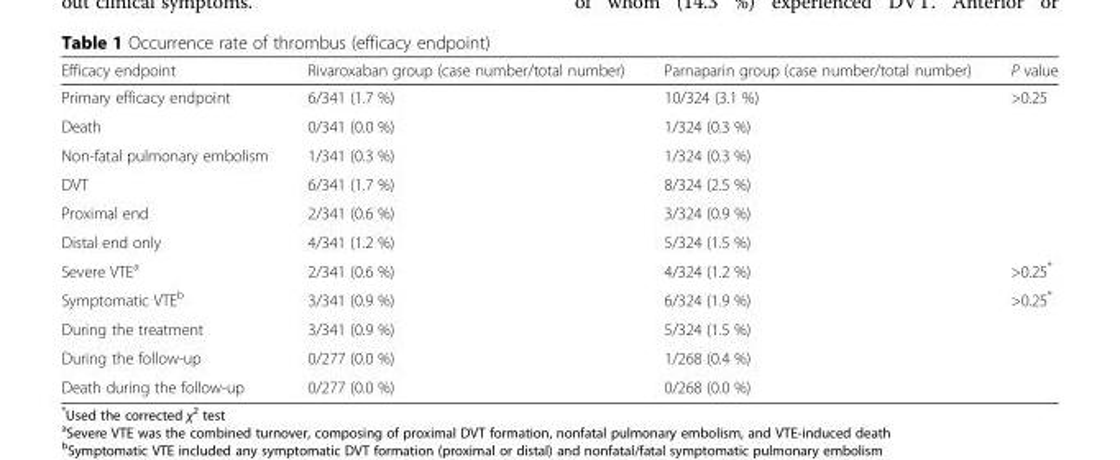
<table><thead><tr><td>Efficacy endpoint</td><td>Rivaroxaban group (case number/total number)</td><td>Parnaparin group (case number/total number)</td><td>P value</td></tr></thead><tbody><tr><td>Primary efficacy endpoint</td><td>6/341 (1.7 %)</td><td>10/324 (3.1 %)</td><td>&gt;0.25</td></tr><tr><td>Death</td><td>0/341 (0.0 %)</td><td>1/324 (0.3 %)</td><td></td></tr><tr><td>Non-fatal pulmonary embolism</td><td>1/341 (0.3 %)</td><td>1/324 (0.3 %)</td><td></td></tr><tr><td>DVT</td><td>6/341 (1.7 %)</td><td>8/324 (2.5 %)</td><td></td></tr><tr><td>Proximal end</td><td>2/341 (0.6 %)</td><td>3/324 (0.9 %)</td><td></td></tr><tr><td>Distal end only</td><td>4/341 (1.2 %)</td><td>5/324 (1.5 %)</td><td></td></tr><tr><td>Severe VTE<sup>a</sup></td><td>2/341 (0.6 %)</td><td>4/324 (1.2 %)</td><td>&gt;0.25*</td></tr><tr><td>Symptomatic VTE<sup>b</sup></td><td>3/341 (0.9 %)</td><td>6/324 (1.9 %)</td><td>&gt;0.25*</td></tr><tr><td>During the treatment</td><td>3/341 (0.9 %)</td><td>5/324 (1.5 %)</td><td></td></tr><tr><td>During the follow-up</td><td>0/277 (0.0 %)</td><td>1/268 (0.4 %)</td><td></td></tr><tr><td>Death during the follow-up</td><td>0/277 (0.0 %)</td><td>0/268 (0.0 %)</td><td></td></tr></tbody></table>